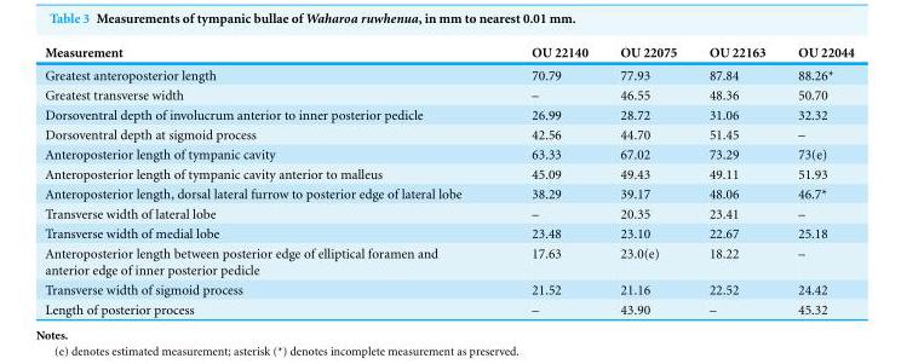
<table><thead><tr><td>Measurement</td><td>OU 22140</td><td>OU 22075</td><td>OU 22163</td><td>OU 22044</td></tr></thead><tbody><tr><td>Greatest anteroposterior length</td><td>70.79</td><td>77.93</td><td>87.84</td><td>88.26*</td></tr><tr><td>Greatest transverse width</td><td>–</td><td>46.55</td><td>48.36</td><td>50.70</td></tr><tr><td>Dorsoventral depth of involucrum anterior to inner posterior pedicle</td><td>26.99</td><td>28.72</td><td>31.06</td><td>32.32</td></tr><tr><td>Dorsoventral depth at sigmoid process</td><td>42.56</td><td>44.70</td><td>51.45</td><td>–</td></tr><tr><td>Anteroposterior length of tympanic cavity</td><td>63.33</td><td>67.02</td><td>73.29</td><td>73(e)</td></tr><tr><td>Anteroposterior length of tympanic cavity anterior to malleus</td><td>45.09</td><td>49.43</td><td>49.11</td><td>51.93</td></tr><tr><td>Anteroposterior length, dorsal lateral furrow to posterior edge of lateral lobe</td><td>38.29</td><td>39.17</td><td>48.06</td><td>46.7*</td></tr><tr><td>Transverse width of lateral lobe</td><td>–</td><td>20.35</td><td>23.41</td><td>–</td></tr><tr><td>Transverse width of medial lobe</td><td>23.48</td><td>23.10</td><td>22.67</td><td>25.18</td></tr><tr><td>Anteroposterior length between posterior edge of elliptical foramen and anterior edge of inner posterior pedicle</td><td>17.63</td><td>23.0(e)</td><td>18.22</td><td>–</td></tr><tr><td>Transverse width of sigmoid process</td><td>21.52</td><td>21.16</td><td>22.52</td><td>24.42</td></tr><tr><td>Length of posterior process</td><td>–</td><td>43.90</td><td>–</td><td>45.32</td></tr></tbody></table>